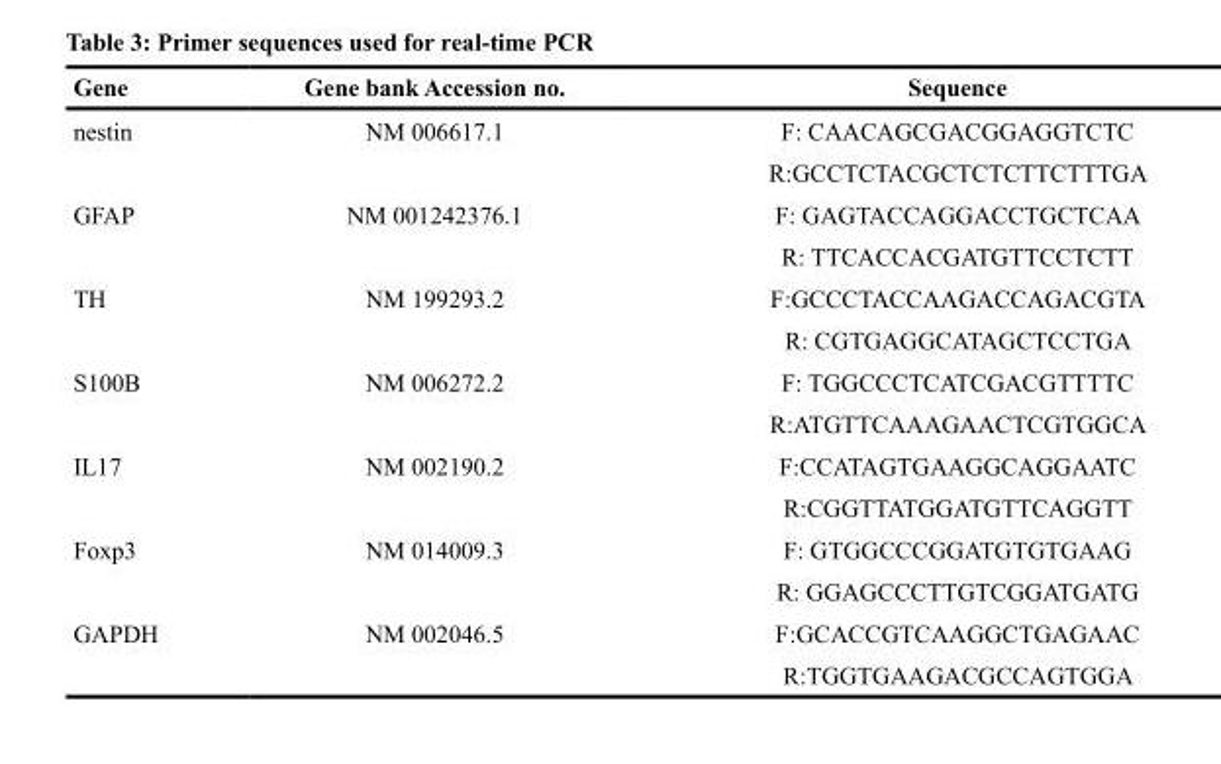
<table><thead><tr><td>Gene</td><td>Gene bank Accession no.</td><td>Sequence</td></tr></thead><tbody><tr><td>nestin</td><td>NM 006617.1</td><td>F: CAACAGCGACGGAGGTCTC R:GCCTCTACGCTCTCTTCTTTGA</td></tr><tr><td>GFAP</td><td>NM 001242376.1</td><td>F: GAGTACCAGGACCTGCTCAA R: TTCACCACGATGTTCCTCTT</td></tr><tr><td>TH</td><td>NM 199293.2</td><td>F:GCCCTACCAAGACCAGACGTA R: CGTGAGGCATAGCTCCTGA</td></tr><tr><td>S100B</td><td>NM 006272.2</td><td>F: TGGCCCTCATCGACGTTTTC R:ATGTTCAAAGAACTCGTGGCA</td></tr><tr><td>IL17</td><td>NM 002190.2</td><td>F:CCATAGTGAAGGCAGGAATC R:CGGTTATGGATGTTCAGGTT</td></tr><tr><td>Foxp3</td><td>NM 014009.3</td><td>F: GTGGCCCGGATGTGTGAAG R: GGAGCCCTTGTCGGATGATG</td></tr><tr><td>GAPDH</td><td>NM 002046.5</td><td>F:GCACCGTCAAGGCTGAGAAC R:TGGTGAAGACGCCAGTGGA</td></tr></tbody></table>